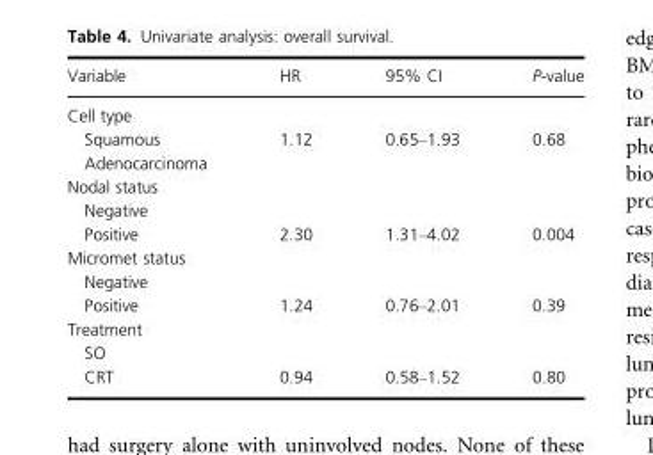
<table><thead><tr><td>Variable</td><td>HR</td><td>95% CI</td><td>P-value</td></tr></thead><tbody><tr><td colspan="4">Cell type</td></tr><tr><td>Squamous</td><td>1.12</td><td>0.65–1.93</td><td>0.68</td></tr><tr><td colspan="4">Adenocarcinoma</td></tr><tr><td colspan="4">Nodal status</td></tr><tr><td colspan="4">Negative</td></tr><tr><td>Positive</td><td>2.30</td><td>1.31–4.02</td><td>0.004</td></tr><tr><td colspan="4">Micromet status</td></tr><tr><td colspan="4">Negative</td></tr><tr><td>Positive</td><td>1.24</td><td>0.76–2.01</td><td>0.39</td></tr><tr><td colspan="4">Treatment</td></tr><tr><td colspan="4">SO</td></tr><tr><td>CRT</td><td>0.94</td><td>0.58–1.52</td><td>0.80</td></tr></tbody></table>